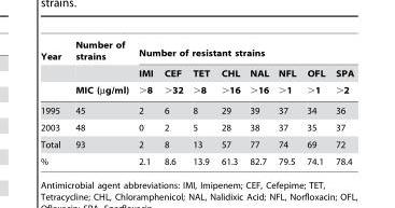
<table><thead><tr><td rowspan="3">Year</td><td rowspan="3">Number of strains MIC (µg/ml)</td><td colspan="8">Number of resistant strains</td></tr><tr><td rowspan="2">IMI &gt;8</td><td rowspan="2">CEF &gt;32</td><td rowspan="2">TET &gt;8</td><td rowspan="2">CHL &gt;16</td><td rowspan="2">NAL &gt;16</td><td rowspan="2">NFL &gt;1</td><td rowspan="2">OFL &gt;1</td><td rowspan="2">SPA &gt;2</td></tr><tr></tr></thead><tbody><tr><td>1995</td><td>45</td><td>2</td><td>6</td><td>8</td><td>29</td><td>39</td><td>37</td><td>34</td><td>36</td></tr><tr><td>2003</td><td>48</td><td>0</td><td>2</td><td>5</td><td>28</td><td>38</td><td>37</td><td>35</td><td>37</td></tr><tr><td>Total</td><td>93</td><td>2</td><td>8</td><td>13</td><td>57</td><td>77</td><td>74</td><td>69</td><td>72</td></tr><tr><td>%</td><td></td><td>2.1</td><td>8.6</td><td>13.9</td><td>61.3</td><td>82.7</td><td>79.5</td><td>74.1</td><td>78.4</td></tr></tbody></table>